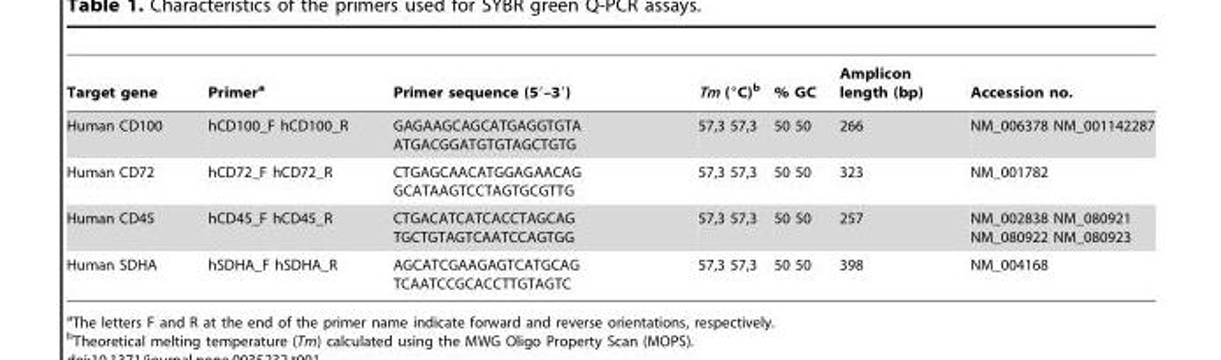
<table><thead><tr><td>Target gene</td><td>Primera</td><td>Primer sequence (5′–3′)</td><td>Tm (°C)b</td><td>% GC</td><td>Amplicon length (bp)</td><td>Accession no.</td></tr></thead><tbody><tr><td>Human CD100</td><td>hCD100_F hCD100_R</td><td>GAGAAGCAGCATGAGGTGTA ATGACGGATGTGTAGCTGTG</td><td>57,3 57,3</td><td>50 50</td><td>266</td><td>NM_006378 NM_001142287</td></tr><tr><td>Human CD72</td><td>hCD72_F hCD72_R</td><td>CTGAGCAACATGGAGAACAG GCATAAGTCCTAGTGCGTTG</td><td>57,3 57,3</td><td>50 50</td><td>323</td><td>NM_001782</td></tr><tr><td>Human CD45</td><td>hCD45_F hCD45_R</td><td>CTGACATCATCACCTAGCAG TGCTGTAGTCAATCCAGTGG</td><td>57,3 57,3</td><td>50 50</td><td>257</td><td>NM_002838 NM_080921 NM_080922 NM_080923</td></tr><tr><td>Human SDHA</td><td>hSDHA_F hSDHA_R</td><td>AGCATCGAAGAGTCATGCAG TCAATCCGCACCTTGTAGTC</td><td>57,3 57,3</td><td>50 50</td><td>398</td><td>NM_004168</td></tr></tbody></table>